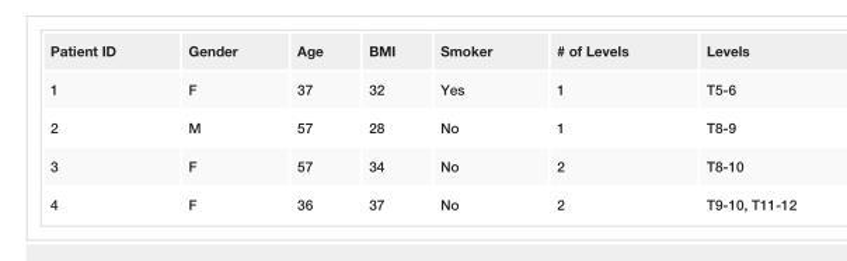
<table><tbody><tr><td>Patient ID</td><td>Gender</td><td>Age</td><td>BMI</td><td>Smoker</td><td># of Levels</td><td>Levels</td></tr><tr><td>1</td><td>F</td><td>37</td><td>32</td><td>Yes</td><td>1</td><td>T5-6</td></tr><tr><td>2</td><td>M</td><td>57</td><td>28</td><td>No</td><td>1</td><td>T8-9</td></tr><tr><td>3</td><td>F</td><td>57</td><td>34</td><td>No</td><td>2</td><td>T8-10</td></tr><tr><td>4</td><td>F</td><td>36</td><td>37</td><td>No</td><td>2</td><td>T9-10, T11-12</td></tr></tbody></table>